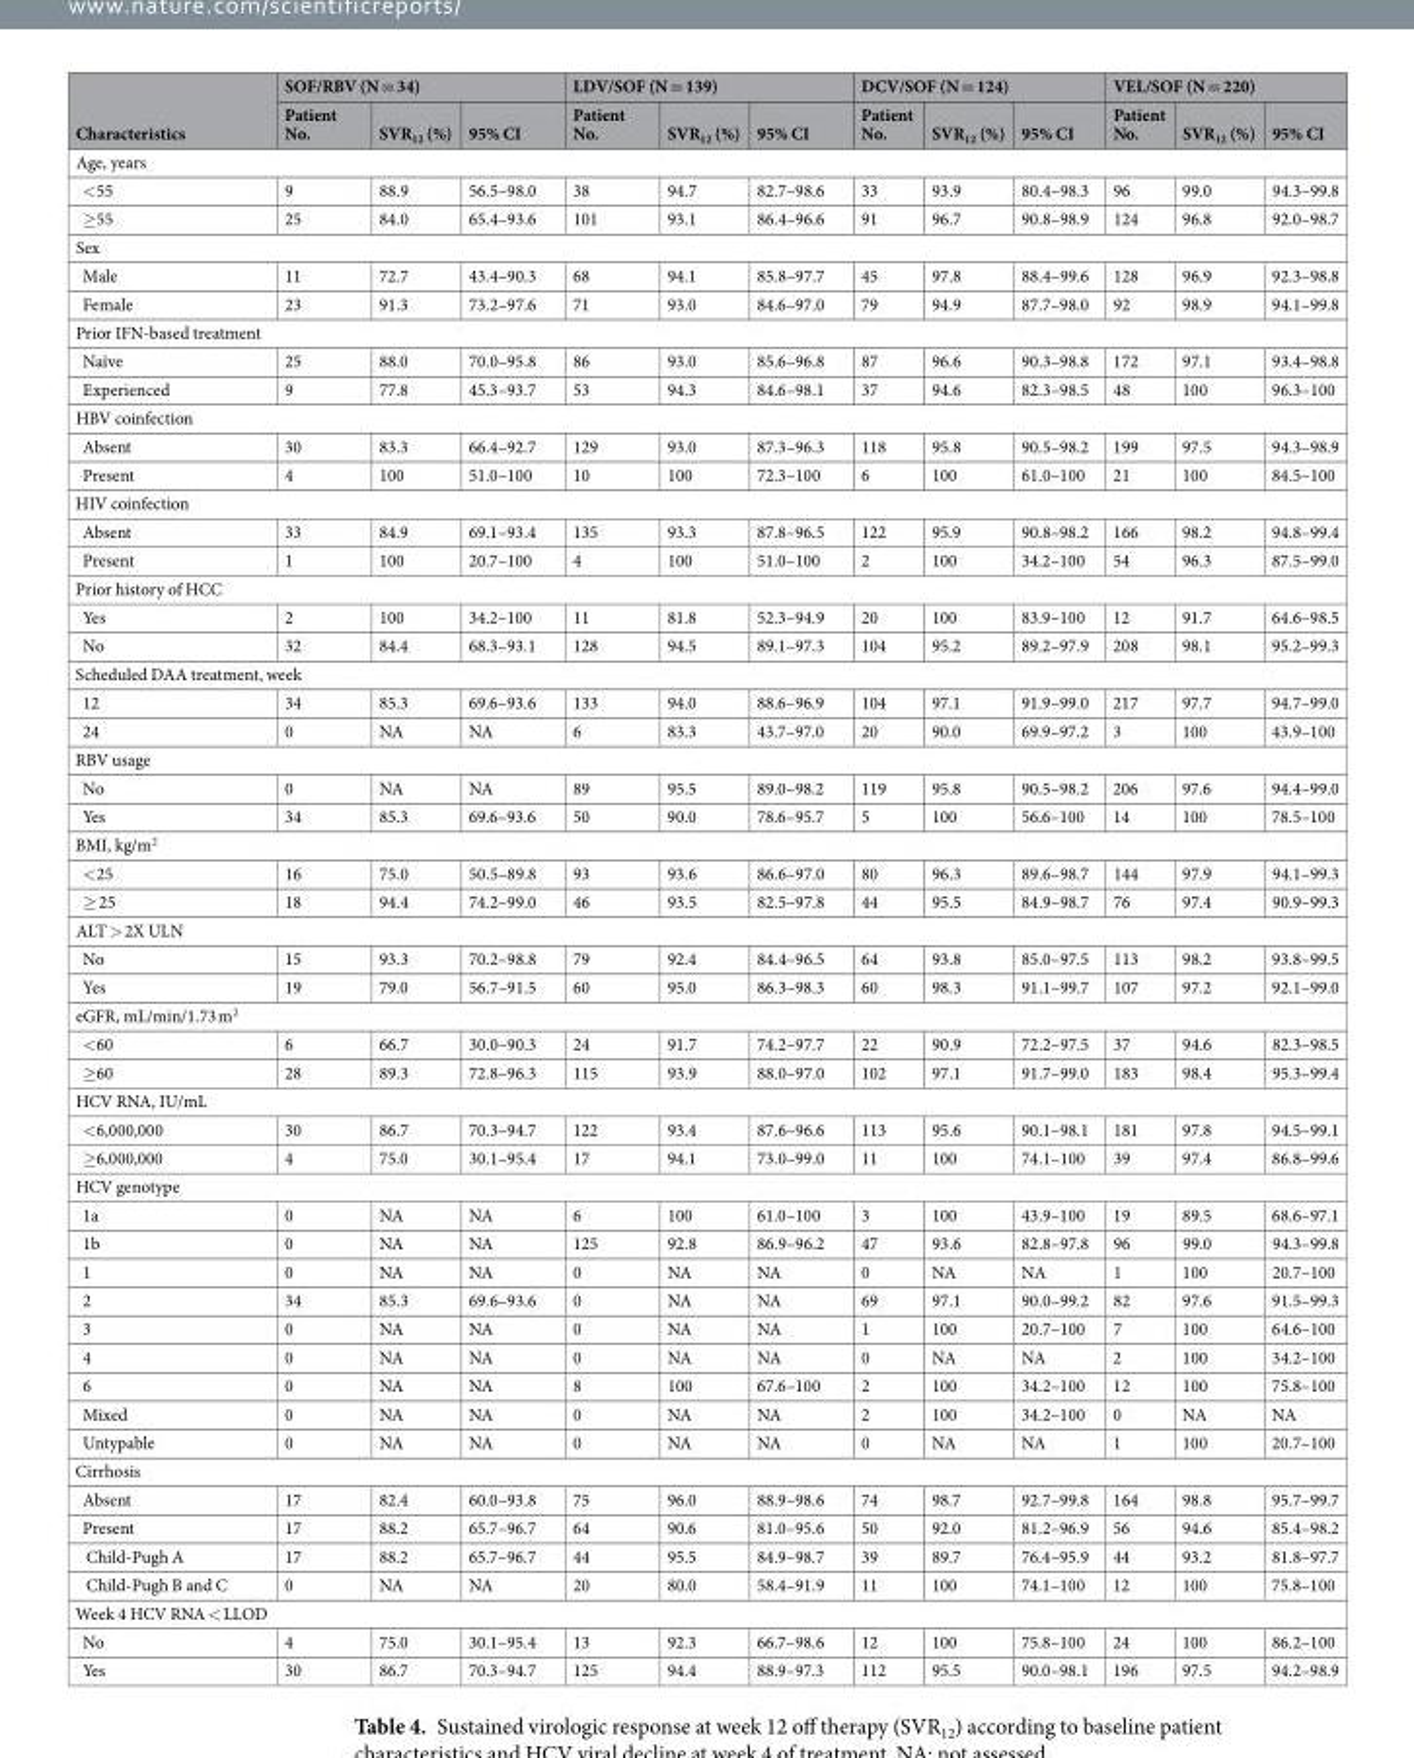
<table><thead><tr><td rowspan="2">Characteristics</td><td colspan="3">SOF/RBV (N = 34)</td><td colspan="3">LDV/SOF (N = 139)</td><td colspan="3">DCV/SOF (N = 124)</td><td colspan="3">VEL/SOF (N = 220)</td></tr><tr><td>Patient No.</td><td>SVR<sub>12</sub> (%)</td><td>95% CI</td><td>Patient No.</td><td>SVR<sub>12</sub> (%)</td><td>95% CI</td><td>Patient No.</td><td>SVR<sub>12</sub> (%)</td><td>95% CI</td><td>Patient No.</td><td>SVR<sub>12</sub> (%)</td><td>95% CI</td></tr></thead><tbody><tr><td colspan="13">Age, years</td></tr><tr><td>&lt;55</td><td>9</td><td>88.9</td><td>56.5–98.0</td><td>38</td><td>94.7</td><td>82.7–98.6</td><td>33</td><td>93.9</td><td>80.4–98.3</td><td>96</td><td>99.0</td><td>94.3–99.8</td></tr><tr><td>≥55</td><td>25</td><td>84.0</td><td>65.4–93.6</td><td>101</td><td>93.1</td><td>86.4–96.6</td><td>91</td><td>96.7</td><td>90.8–98.9</td><td>124</td><td>96.8</td><td>92.0–98.7</td></tr><tr><td colspan="13">Sex</td></tr><tr><td>Male</td><td>11</td><td>72.7</td><td>43.4–90.3</td><td>68</td><td>94.1</td><td>85.8–97.7</td><td>45</td><td>97.8</td><td>88.4–99.6</td><td>128</td><td>96.9</td><td>92.3–98.8</td></tr><tr><td>Female</td><td>23</td><td>91.3</td><td>73.2–97.6</td><td>71</td><td>93.0</td><td>84.6–97.0</td><td>79</td><td>94.9</td><td>87.7–98.0</td><td>92</td><td>98.9</td><td>94.1–99.8</td></tr><tr><td colspan="13">Prior IFN-based treatment</td></tr><tr><td>Naïve</td><td>25</td><td>88.0</td><td>70.0–95.8</td><td>86</td><td>93.0</td><td>85.6–96.8</td><td>87</td><td>96.6</td><td>90.3–98.8</td><td>172</td><td>97.1</td><td>93.4–98.8</td></tr><tr><td>Experienced</td><td>9</td><td>77.8</td><td>45.3–93.7</td><td>53</td><td>94.3</td><td>84.6–98.1</td><td>37</td><td>94.6</td><td>82.3–98.5</td><td>48</td><td>100</td><td>96.3–100</td></tr><tr><td colspan="13">HBV coinfection</td></tr><tr><td>Absent</td><td>30</td><td>83.3</td><td>66.4–92.7</td><td>129</td><td>93.0</td><td>87.3–96.3</td><td>118</td><td>95.8</td><td>90.5–98.2</td><td>199</td><td>97.5</td><td>94.3–98.9</td></tr><tr><td>Present</td><td>4</td><td>100</td><td>51.0–100</td><td>10</td><td>100</td><td>72.3–100</td><td>6</td><td>100</td><td>61.0–100</td><td>21</td><td>100</td><td>84.5–100</td></tr><tr><td colspan="13">HIV coinfection</td></tr><tr><td>Absent</td><td>33</td><td>84.9</td><td>69.1–93.4</td><td>135</td><td>93.3</td><td>87.8–96.5</td><td>122</td><td>95.9</td><td>90.8–98.2</td><td>166</td><td>98.2</td><td>94.8–99.4</td></tr><tr><td>Present</td><td>1</td><td>100</td><td>20.7–100</td><td>4</td><td>100</td><td>51.0–100</td><td>2</td><td>100</td><td>34.2–100</td><td>54</td><td>96.3</td><td>87.5–99.0</td></tr><tr><td colspan="13">Prior history of HCC</td></tr><tr><td>Yes</td><td>2</td><td>100</td><td>34.2–100</td><td>11</td><td>81.8</td><td>52.3–94.9</td><td>20</td><td>100</td><td>83.9–100</td><td>12</td><td>91.7</td><td>64.6–98.5</td></tr><tr><td>No</td><td>32</td><td>84.4</td><td>68.3–93.1</td><td>128</td><td>94.5</td><td>89.1–97.3</td><td>104</td><td>95.2</td><td>89.2–97.9</td><td>208</td><td>98.1</td><td>95.2–99.3</td></tr><tr><td colspan="13">Scheduled DAA treatment, week</td></tr><tr><td>12</td><td>34</td><td>85.3</td><td>69.6–93.6</td><td>133</td><td>94.0</td><td>88.6–96.9</td><td>104</td><td>97.1</td><td>91.9–99.0</td><td>217</td><td>97.7</td><td>94.7–99.0</td></tr><tr><td>24</td><td>0</td><td>NA</td><td>NA</td><td>6</td><td>83.3</td><td>43.7–97.0</td><td>20</td><td>90.0</td><td>69.9–97.2</td><td>3</td><td>100</td><td>43.9–100</td></tr><tr><td colspan="13">RBV usage</td></tr><tr><td>No</td><td>0</td><td>NA</td><td>NA</td><td>89</td><td>95.5</td><td>89.0–98.2</td><td>119</td><td>95.8</td><td>90.5–98.2</td><td>206</td><td>97.6</td><td>94.4–99.0</td></tr><tr><td>Yes</td><td>34</td><td>85.3</td><td>69.6–93.6</td><td>50</td><td>90.0</td><td>78.6–95.7</td><td>5</td><td>100</td><td>56.6–100</td><td>14</td><td>100</td><td>78.5–100</td></tr><tr><td colspan="13">BMI, kg/m<sup>2</sup></td></tr><tr><td>&lt;25</td><td>16</td><td>75.0</td><td>50.5–89.8</td><td>93</td><td>93.6</td><td>86.6–97.0</td><td>80</td><td>96.3</td><td>89.6–98.7</td><td>144</td><td>97.9</td><td>94.1–99.3</td></tr><tr><td>≥ 25</td><td>18</td><td>94.4</td><td>74.2–99.0</td><td>46</td><td>93.5</td><td>82.5–97.8</td><td>44</td><td>95.5</td><td>84.9–98.7</td><td>76</td><td>97.4</td><td>90.9–99.3</td></tr><tr><td colspan="13">ALT &gt; 2X ULN</td></tr><tr><td>No</td><td>15</td><td>93.3</td><td>70.2–98.8</td><td>79</td><td>92.4</td><td>84.4–96.5</td><td>64</td><td>93.8</td><td>85.0–97.5</td><td>113</td><td>98.2</td><td>93.8–99.5</td></tr><tr><td>Yes</td><td>19</td><td>79.0</td><td>56.7–91.5</td><td>60</td><td>95.0</td><td>86.3–98.3</td><td>60</td><td>98.3</td><td>91.1–99.7</td><td>107</td><td>97.2</td><td>92.1–99.0</td></tr><tr><td colspan="13">eGFR, mL/min/1.73 m<sup>2</sup></td></tr><tr><td>&lt;60</td><td>6</td><td>66.7</td><td>30.0–90.3</td><td>24</td><td>91.7</td><td>74.2–97.7</td><td>22</td><td>90.9</td><td>72.2–97.5</td><td>37</td><td>94.6</td><td>82.3–98.5</td></tr><tr><td>≥60</td><td>28</td><td>89.3</td><td>72.8–96.3</td><td>115</td><td>93.9</td><td>88.0–97.0</td><td>102</td><td>97.1</td><td>91.7–99.0</td><td>183</td><td>98.4</td><td>95.3–99.4</td></tr><tr><td colspan="13">HCV RNA, IU/mL</td></tr><tr><td>&lt;6,000,000</td><td>30</td><td>86.7</td><td>70.3–94.7</td><td>122</td><td>93.4</td><td>87.6–96.6</td><td>113</td><td>95.6</td><td>90.1–98.1</td><td>181</td><td>97.8</td><td>94.5–99.1</td></tr><tr><td>≥6,000,000</td><td>4</td><td>75.0</td><td>30.1–95.4</td><td>17</td><td>94.1</td><td>73.0–99.0</td><td>11</td><td>100</td><td>74.1–100</td><td>39</td><td>97.4</td><td>86.8–99.6</td></tr><tr><td colspan="13">HCV genotype</td></tr><tr><td>1a</td><td>0</td><td>NA</td><td>NA</td><td>6</td><td>100</td><td>61.0–100</td><td>3</td><td>100</td><td>43.9–100</td><td>19</td><td>89.5</td><td>68.6–97.1</td></tr><tr><td>1b</td><td>0</td><td>NA</td><td>NA</td><td>125</td><td>92.8</td><td>86.9–96.2</td><td>47</td><td>93.6</td><td>82.8–97.8</td><td>96</td><td>99.0</td><td>94.3–99.8</td></tr><tr><td>1</td><td>0</td><td>NA</td><td>NA</td><td>0</td><td>NA</td><td>NA</td><td>0</td><td>NA</td><td>NA</td><td>1</td><td>100</td><td>20.7–100</td></tr><tr><td>2</td><td>34</td><td>85.3</td><td>69.6–93.6</td><td>0</td><td>NA</td><td>NA</td><td>69</td><td>97.1</td><td>90.0–99.2</td><td>82</td><td>97.6</td><td>91.5–99.3</td></tr><tr><td>3</td><td>0</td><td>NA</td><td>NA</td><td>0</td><td>NA</td><td>NA</td><td>1</td><td>100</td><td>20.7–100</td><td>7</td><td>100</td><td>64.6–100</td></tr><tr><td>4</td><td>0</td><td>NA</td><td>NA</td><td>0</td><td>NA</td><td>NA</td><td>0</td><td>NA</td><td>NA</td><td>2</td><td>100</td><td>34.2–100</td></tr><tr><td>6</td><td>0</td><td>NA</td><td>NA</td><td>8</td><td>100</td><td>67.6–100</td><td>2</td><td>100</td><td>34.2–100</td><td>12</td><td>100</td><td>75.8–100</td></tr><tr><td>Mixed</td><td>0</td><td>NA</td><td>NA</td><td>0</td><td>NA</td><td>NA</td><td>2</td><td>100</td><td>34.2–100</td><td>0</td><td>NA</td><td>NA</td></tr><tr><td>Untypable</td><td>0</td><td>NA</td><td>NA</td><td>0</td><td>NA</td><td>NA</td><td>0</td><td>NA</td><td>NA</td><td>1</td><td>100</td><td>20.7–100</td></tr><tr><td colspan="13">Cirrhosis</td></tr><tr><td>Absent</td><td>17</td><td>82.4</td><td>60.0–93.8</td><td>75</td><td>96.0</td><td>88.9–98.6</td><td>74</td><td>98.7</td><td>92.7–99.8</td><td>164</td><td>98.8</td><td>95.7–99.7</td></tr><tr><td>Present</td><td>17</td><td>88.2</td><td>65.7–96.7</td><td>64</td><td>90.6</td><td>81.0–95.6</td><td>50</td><td>92.0</td><td>81.2–96.9</td><td>56</td><td>94.6</td><td>85.4–98.2</td></tr><tr><td>Child-Pugh A</td><td>17</td><td>88.2</td><td>65.7–96.7</td><td>44</td><td>95.5</td><td>84.9–98.7</td><td>39</td><td>89.7</td><td>76.4–95.9</td><td>44</td><td>93.2</td><td>81.8–97.7</td></tr><tr><td>Child-Pugh B and C</td><td>0</td><td>NA</td><td>NA</td><td>20</td><td>80.0</td><td>58.4–91.9</td><td>11</td><td>100</td><td>74.1–100</td><td>12</td><td>100</td><td>75.8–100</td></tr><tr><td colspan="13">Week 4 HCV RNA &lt; LLOD</td></tr><tr><td>No</td><td>4</td><td>75.0</td><td>30.1–95.4</td><td>13</td><td>92.3</td><td>66.7–98.6</td><td>12</td><td>100</td><td>75.8–100</td><td>24</td><td>100</td><td>86.2–100</td></tr><tr><td>Yes</td><td>30</td><td>86.7</td><td>70.3–94.7</td><td>125</td><td>94.4</td><td>88.9–97.3</td><td>112</td><td>95.5</td><td>90.0–98.1</td><td>196</td><td>97.5</td><td>94.2–98.9</td></tr></tbody></table>